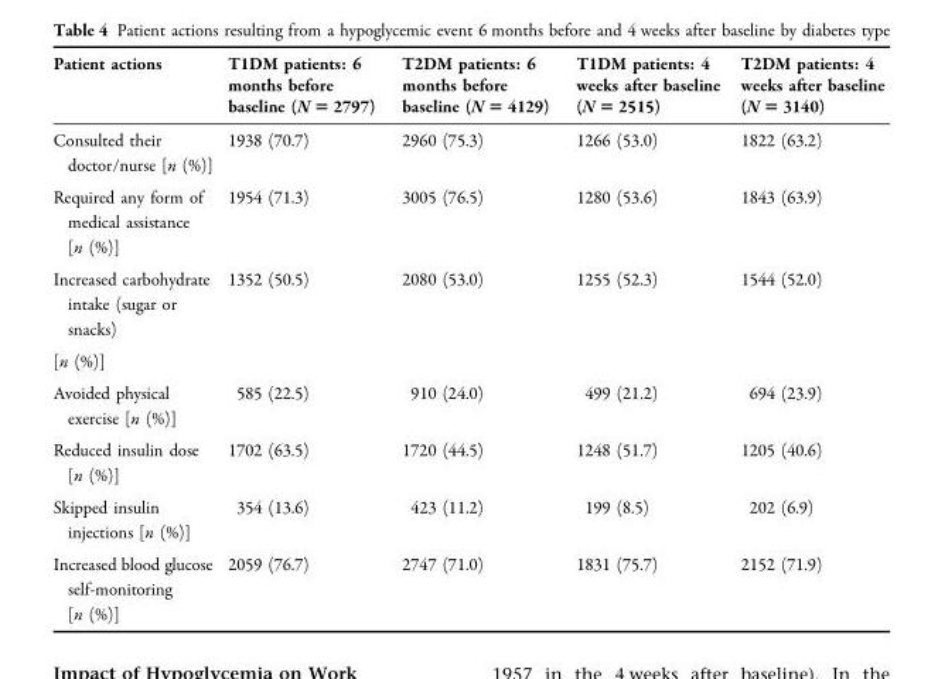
<table><thead><tr><td>Patient actions</td><td>T1DM patients: 6 months before baseline (N = 2797)</td><td>T2DM patients: 6 months before baseline (N = 4129)</td><td>T1DM patients: 4 weeks after baseline (N = 2515)</td><td>T2DM patients: 4 weeks after baseline (N = 3140)</td></tr></thead><tbody><tr><td>Consulted their doctor/nurse [n (%)]</td><td>1938 (70.7)</td><td>2960 (75.3)</td><td>1266 (53.0)</td><td>1822 (63.2)</td></tr><tr><td>Required any form of medical assistance [n (%)]</td><td>1954 (71.3)</td><td>3005 (76.5)</td><td>1280 (53.6)</td><td>1843 (63.9)</td></tr><tr><td>Increased carbohydrate intake (sugar or snacks) [n (%)]</td><td>1352 (50.5)</td><td>2080 (53.0)</td><td>1255 (52.3)</td><td>1544 (52.0)</td></tr><tr><td>Avoided physical exercise [n (%)]</td><td>585 (22.5)</td><td>910 (24.0)</td><td>499 (21.2)</td><td>694 (23.9)</td></tr><tr><td>Reduced insulin dose [n (%)]</td><td>1702 (63.5)</td><td>1720 (44.5)</td><td>1248 (51.7)</td><td>1205 (40.6)</td></tr><tr><td>Skipped insulin injections [n (%)]</td><td>354 (13.6)</td><td>423 (11.2)</td><td>199 (8.5)</td><td>202 (6.9)</td></tr><tr><td>Increased blood glucose self-monitoring [n (%)]</td><td>2059 (76.7)</td><td>2747 (71.0)</td><td>1831 (75.7)</td><td>2152 (71.9)</td></tr></tbody></table>